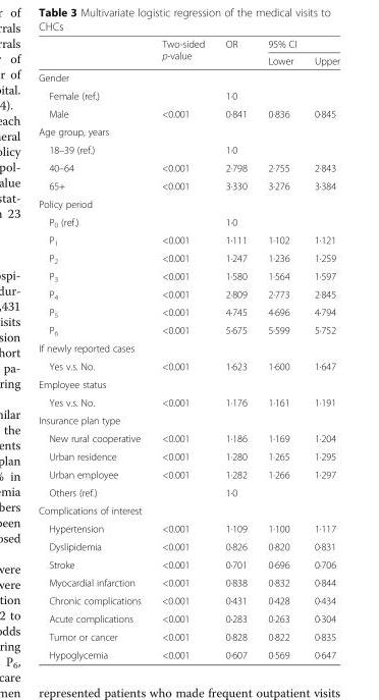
<table><thead><tr><td rowspan="2"></td><td rowspan="2">Two-sided p-value</td><td rowspan="2">OR</td><td colspan="2">95% CI</td></tr><tr><td>Lower</td><td>Upper</td></tr></thead><tbody><tr><td colspan="5">Gender</td></tr><tr><td>Female (ref.)</td><td></td><td>1·0</td><td></td><td></td></tr><tr><td>Male</td><td>&lt;0.001</td><td>0·841</td><td>0·836</td><td>0·845</td></tr><tr><td colspan="5">Age group, years</td></tr><tr><td>18–39 (ref.)</td><td></td><td>1·0</td><td></td><td></td></tr><tr><td>40–64</td><td>&lt;0.001</td><td>2·798</td><td>2·755</td><td>2·843</td></tr><tr><td>65+</td><td>&lt;0.001</td><td>3·330</td><td>3·276</td><td>3·384</td></tr><tr><td colspan="5">Policy period</td></tr><tr><td>P<sub>0</sub> (ref.)</td><td></td><td>1·0</td><td></td><td></td></tr><tr><td>P<sub>1</sub></td><td>&lt;0.001</td><td>1·111</td><td>1·102</td><td>1·121</td></tr><tr><td>P<sub>2</sub></td><td>&lt;0.001</td><td>1·247</td><td>1·236</td><td>1·259</td></tr><tr><td>P<sub>3</sub></td><td>&lt;0.001</td><td>1·580</td><td>1·564</td><td>1·597</td></tr><tr><td>P<sub>4</sub></td><td>&lt;0.001</td><td>2·809</td><td>2·773</td><td>2·845</td></tr><tr><td>P<sub>5</sub></td><td>&lt;0.001</td><td>4·745</td><td>4·696</td><td>4·794</td></tr><tr><td>P<sub>6</sub></td><td>&lt;0.001</td><td>5·675</td><td>5·599</td><td>5·752</td></tr><tr><td colspan="5">If newly reported cases</td></tr><tr><td>Yes v.s. No.</td><td>&lt;0.001</td><td>1·623</td><td>1·600</td><td>1·647</td></tr><tr><td colspan="5">Employee status</td></tr><tr><td>Yes v.s. No.</td><td>&lt;0.001</td><td>1·176</td><td>1·161</td><td>1·191</td></tr><tr><td colspan="5">Insurance plan type</td></tr><tr><td>New rural cooperative</td><td>&lt;0.001</td><td>1·186</td><td>1·169</td><td>1·204</td></tr><tr><td>Urban residence</td><td>&lt;0.001</td><td>1·280</td><td>1·265</td><td>1·295</td></tr><tr><td>Urban employee</td><td>&lt;0.001</td><td>1·282</td><td>1·266</td><td>1·297</td></tr><tr><td>Others (ref.)</td><td></td><td>1·0</td><td></td><td></td></tr><tr><td colspan="5">Complications of interest</td></tr><tr><td>Hypertension</td><td>&lt;0.001</td><td>1·109</td><td>1·100</td><td>1·117</td></tr><tr><td>Dyslipidemia</td><td>&lt;0.001</td><td>0·826</td><td>0·820</td><td>0·831</td></tr><tr><td>Stroke</td><td>&lt;0.001</td><td>0·701</td><td>0·696</td><td>0·706</td></tr><tr><td>Myocardial infarction</td><td>&lt;0.001</td><td>0·838</td><td>0·832</td><td>0·844</td></tr><tr><td>Chronic complications</td><td>&lt;0.001</td><td>0·431</td><td>0·428</td><td>0·434</td></tr><tr><td>Acute complications</td><td>&lt;0.001</td><td>0·283</td><td>0·263</td><td>0·304</td></tr><tr><td>Tumor or cancer</td><td>&lt;0.001</td><td>0·828</td><td>0·822</td><td>0·835</td></tr><tr><td>Hypoglycemia</td><td>&lt;0.001</td><td>0·607</td><td>0·569</td><td>0·647</td></tr></tbody></table>